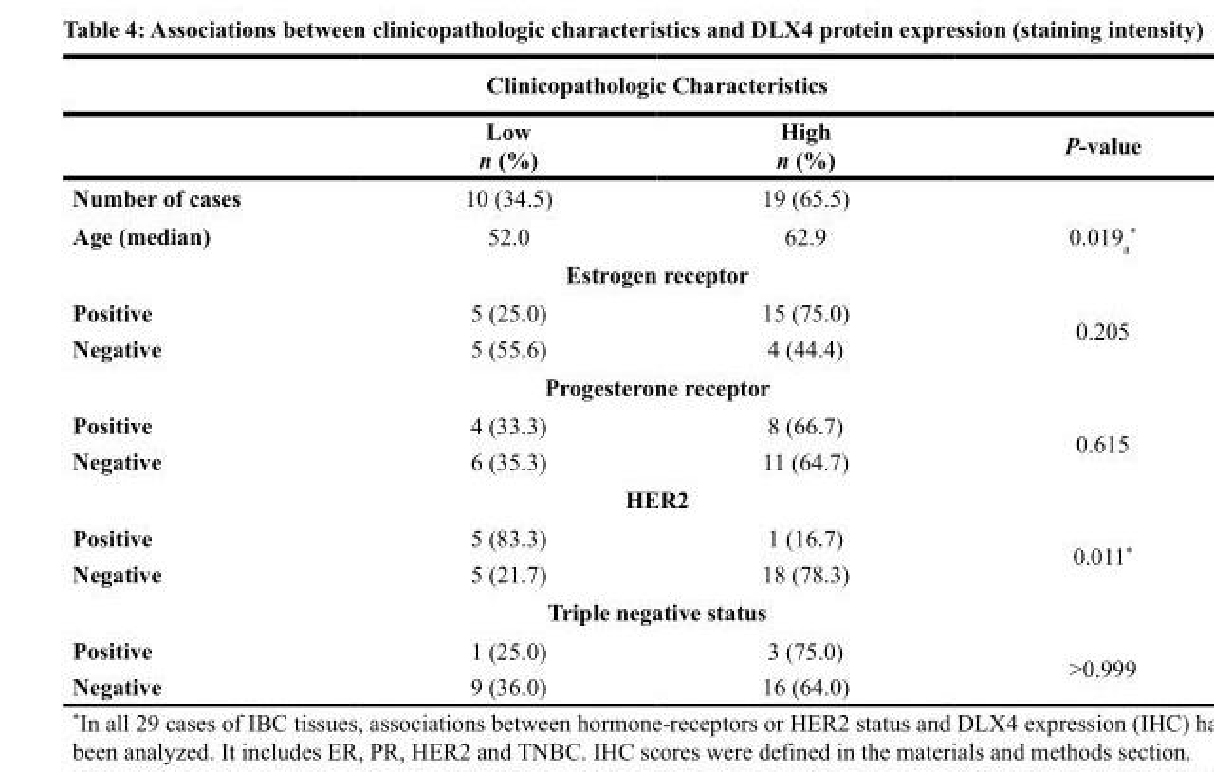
<table><thead><tr><td colspan="4">clinicopathologic characteristics</td></tr><tr><td></td><td>low n (%)</td><td>High n (%)</td><td>P-value</td></tr></thead><tbody><tr><td>number of cases</td><td>10 (34.5)</td><td>19 (65.5)</td><td></td></tr><tr><td>Age (median)</td><td>52.0</td><td>62.9</td><td>0.019<sub>a</sub> *</td></tr><tr><td colspan="4">estrogen receptor</td></tr><tr><td>Positive</td><td>5 (25.0)</td><td>15 (75.0)</td><td rowspan="2">0.205</td></tr><tr><td>negative</td><td>5 (55.6)</td><td>4 (44.4)</td></tr><tr><td colspan="4">Progesterone receptor</td></tr><tr><td>Positive</td><td>4 (33.3)</td><td>8 (66.7)</td><td rowspan="2">0.615</td></tr><tr><td>negative</td><td>6 (35.3)</td><td>11 (64.7)</td></tr><tr><td colspan="4">Her2</td></tr><tr><td>Positive</td><td>5 (83.3)</td><td>1 (16.7)</td><td rowspan="2">0.011*</td></tr><tr><td>negative</td><td>5 (21.7)</td><td>18 (78.3)</td></tr><tr><td colspan="4">triple negative status</td></tr><tr><td>Positive</td><td>1 (25.0)</td><td>3 (75.0)</td><td rowspan="2">&gt;0.999</td></tr><tr><td>negative</td><td>9 (36.0)</td><td>16 (64.0)</td></tr></tbody></table>